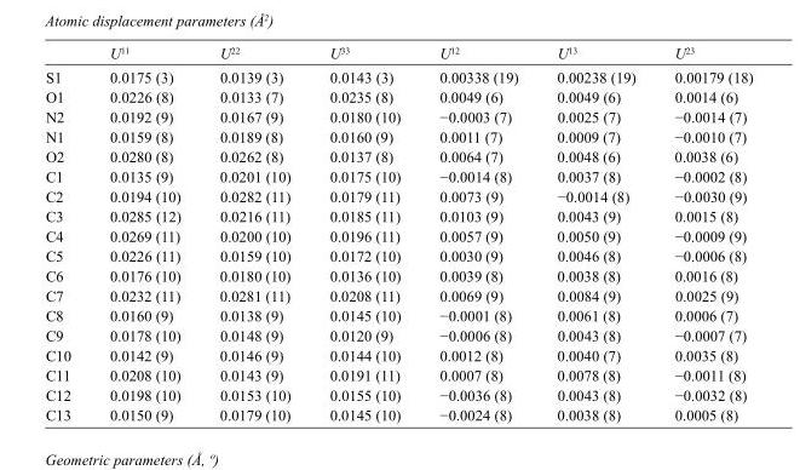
<table><thead><tr><td></td><td>U<sup>11</sup></td><td>U<sup>22</sup></td><td>U<sup>33</sup></td><td>U<sup>12</sup></td><td>U<sup>13</sup></td><td>U<sup>23</sup></td></tr></thead><tbody><tr><td>S1</td><td>0.0175 (3)</td><td>0.0139 (3)</td><td>0.0143 (3)</td><td>0.00338 (19)</td><td>0.00238 (19)</td><td>0.00179 (18)</td></tr><tr><td>O1</td><td>0.0226 (8)</td><td>0.0133 (7)</td><td>0.0235 (8)</td><td>0.0049 (6)</td><td>0.0049 (6)</td><td>0.0014 (6)</td></tr><tr><td>N2</td><td>0.0192 (9)</td><td>0.0167 (9)</td><td>0.0180 (10)</td><td>−0.0003 (7)</td><td>0.0025 (7)</td><td>−0.0014 (7)</td></tr><tr><td>N1</td><td>0.0159 (8)</td><td>0.0189 (8)</td><td>0.0160 (9)</td><td>0.0011 (7)</td><td>0.0009 (7)</td><td>−0.0010 (7)</td></tr><tr><td>O2</td><td>0.0280 (8)</td><td>0.0262 (8)</td><td>0.0137 (8)</td><td>0.0064 (7)</td><td>0.0048 (6)</td><td>0.0038 (6)</td></tr><tr><td>C1</td><td>0.0135 (9)</td><td>0.0201 (10)</td><td>0.0175 (10)</td><td>−0.0014 (8)</td><td>0.0037 (8)</td><td>−0.0002 (8)</td></tr><tr><td>C2</td><td>0.0194 (10)</td><td>0.0282 (11)</td><td>0.0179 (11)</td><td>0.0073 (9)</td><td>−0.0014 (8)</td><td>−0.0030 (9)</td></tr><tr><td>C3</td><td>0.0285 (12)</td><td>0.0216 (11)</td><td>0.0185 (11)</td><td>0.0103 (9)</td><td>0.0043 (9)</td><td>0.0015 (8)</td></tr><tr><td>C4</td><td>0.0269 (11)</td><td>0.0200 (10)</td><td>0.0196 (11)</td><td>0.0057 (9)</td><td>0.0050 (9)</td><td>−0.0009 (9)</td></tr><tr><td>C5</td><td>0.0226 (11)</td><td>0.0159 (10)</td><td>0.0172 (10)</td><td>0.0030 (9)</td><td>0.0046 (8)</td><td>−0.0006 (8)</td></tr><tr><td>C6</td><td>0.0176 (10)</td><td>0.0180 (10)</td><td>0.0136 (10)</td><td>0.0039 (8)</td><td>0.0038 (8)</td><td>0.0016 (8)</td></tr><tr><td>C7</td><td>0.0232 (11)</td><td>0.0281 (11)</td><td>0.0208 (11)</td><td>0.0069 (9)</td><td>0.0084 (9)</td><td>0.0025 (9)</td></tr><tr><td>C8</td><td>0.0160 (9)</td><td>0.0138 (9)</td><td>0.0145 (10)</td><td>−0.0001 (8)</td><td>0.0061 (8)</td><td>0.0006 (7)</td></tr><tr><td>C9</td><td>0.0178 (10)</td><td>0.0148 (9)</td><td>0.0120 (9)</td><td>−0.0006 (8)</td><td>0.0043 (8)</td><td>−0.0007 (7)</td></tr><tr><td>C10</td><td>0.0142 (9)</td><td>0.0146 (9)</td><td>0.0144 (10)</td><td>0.0012 (8)</td><td>0.0040 (7)</td><td>0.0035 (8)</td></tr><tr><td>C11</td><td>0.0208 (10)</td><td>0.0143 (9)</td><td>0.0191 (11)</td><td>0.0007 (8)</td><td>0.0078 (8)</td><td>−0.0011 (8)</td></tr><tr><td>C12</td><td>0.0198 (10)</td><td>0.0153 (10)</td><td>0.0155 (10)</td><td>−0.0036 (8)</td><td>0.0043 (8)</td><td>−0.0032 (8)</td></tr><tr><td>C13</td><td>0.0150 (9)</td><td>0.0179 (10)</td><td>0.0145 (10)</td><td>−0.0024 (8)</td><td>0.0038 (8)</td><td>0.0005 (8)</td></tr></tbody></table>